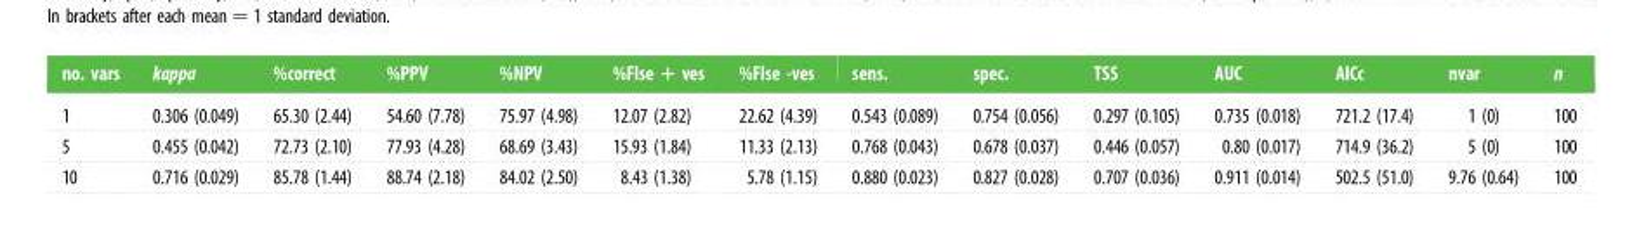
<table><thead><tr><td>no. vars</td><td>kappa</td><td>%correct</td><td>%PPV</td><td>%NPV</td><td>%Flse + ves</td><td>%Flse -ves</td><td>sens.</td><td>spec.</td><td>TSS</td><td>AUC</td><td>AICc</td><td>nvar</td><td>n</td></tr></thead><tbody><tr><td>1</td><td>0.306 (0.049)</td><td>65.30 (2.44)</td><td>54.60 (7.78)</td><td>75.97 (4.98)</td><td>12.07 (2.82)</td><td>22.62 (4.39)</td><td>0.543 (0.089)</td><td>0.754 (0.056)</td><td>0.297 (0.105)</td><td>0.735 (0.018)</td><td>721.2 (17.4)</td><td>1 (0)</td><td>100</td></tr><tr><td>5</td><td>0.455 (0.042)</td><td>72.73 (2.10)</td><td>77.93 (4.28)</td><td>68.69 (3.43)</td><td>15.93 (1.84)</td><td>11.33 (2.13)</td><td>0.768 (0.043)</td><td>0.678 (0.037)</td><td>0.446 (0.057)</td><td>0.80 (0.017)</td><td>714.9 (36.2)</td><td>5 (0)</td><td>100</td></tr><tr><td>10</td><td>0.716 (0.029)</td><td>85.78 (1.44)</td><td>88.74 (2.18)</td><td>84.02 (2.50)</td><td>8.43 (1.38)</td><td>5.78 (1.15)</td><td>0.880 (0.023)</td><td>0.827 (0.028)</td><td>0.707 (0.036)</td><td>0.911 (0.014)</td><td>502.5 (51.0)</td><td>9.76 (0.64)</td><td>100</td></tr></tbody></table>